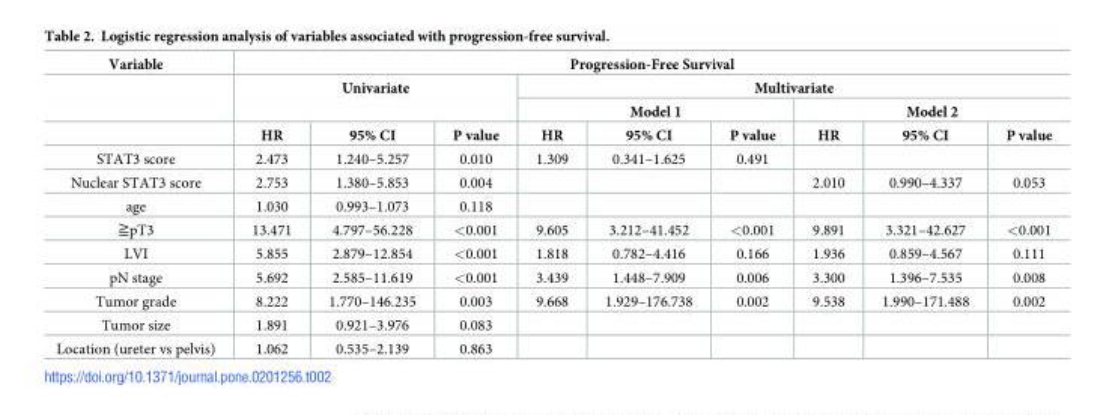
<table><thead><tr><td rowspan="4">Variable</td><td colspan="9">Progression-Free Survival</td></tr><tr><td rowspan="2" colspan="3">Univariate</td><td colspan="6">Multivariate</td></tr><tr><td colspan="3">Model 1</td><td colspan="3">Model 2</td></tr><tr><td>HR</td><td>95% CI</td><td>P value</td><td>HR</td><td>95% CI</td><td>P value</td><td>HR</td><td>95% CI</td><td>P value</td></tr></thead><tbody><tr><td>STAT3 score</td><td>2.473</td><td>1.240–5.257</td><td>0.010</td><td>1.309</td><td>0.341–1.625</td><td>0.491</td><td></td><td></td><td></td></tr><tr><td>Nuclear STAT3 score</td><td>2.753</td><td>1.380–5.853</td><td>0.004</td><td></td><td></td><td></td><td>2.010</td><td>0.990–4.337</td><td>0.053</td></tr><tr><td>age</td><td>1.030</td><td>0.993–1.073</td><td>0.118</td><td></td><td></td><td></td><td></td><td></td><td></td></tr><tr><td>≧pT3</td><td>13.471</td><td>4.797–56.228</td><td>&lt;0.001</td><td>9.605</td><td>3.212–41.452</td><td>&lt;0.001</td><td>9.891</td><td>3.321–42.627</td><td>&lt;0.001</td></tr><tr><td>LVI</td><td>5.855</td><td>2.879–12.854</td><td>&lt;0.001</td><td>1.818</td><td>0.782–4.416</td><td>0.166</td><td>1.936</td><td>0.859–4.567</td><td>0.111</td></tr><tr><td>pN stage</td><td>5.692</td><td>2.585–11.619</td><td>&lt;0.001</td><td>3.439</td><td>1.448–7.909</td><td>0.006</td><td>3.300</td><td>1.396–7.535</td><td>0.008</td></tr><tr><td>Tumor grade</td><td>8.222</td><td>1.770–146.235</td><td>0.003</td><td>9.668</td><td>1.929–176.738</td><td>0.002</td><td>9.538</td><td>1.990–171.488</td><td>0.002</td></tr><tr><td>Tumor size</td><td>1.891</td><td>0.921–3.976</td><td>0.083</td><td></td><td></td><td></td><td></td><td></td><td></td></tr><tr><td>Location (ureter vs pelvis)</td><td>1.062</td><td>0.535–2.139</td><td>0.863</td><td></td><td></td><td></td><td></td><td></td><td></td></tr></tbody></table>